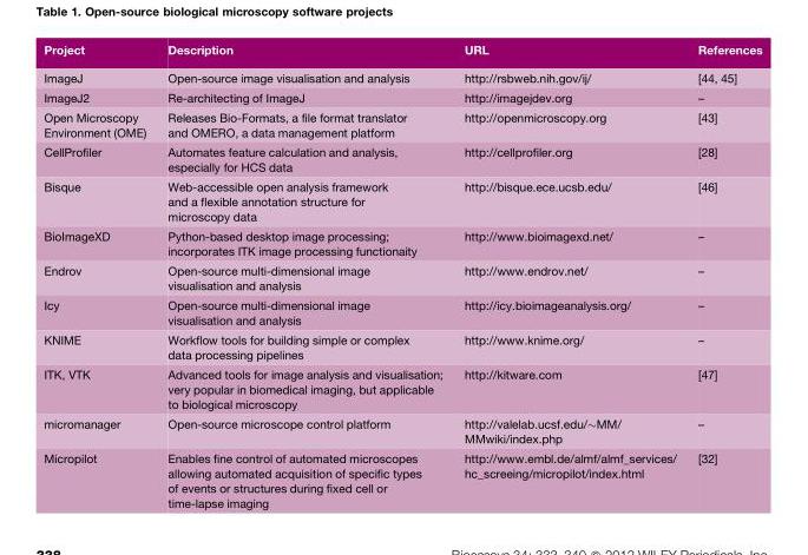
<table><thead><tr><td>Project</td><td>Description</td><td>URL</td><td>References</td></tr></thead><tbody><tr><td>ImageJ</td><td>Open-source image visualisation and analysis</td><td>http://rsbweb.nih.gov/ij/</td><td>[44, 45]</td></tr><tr><td>ImageJ2</td><td>Re-architecting of ImageJ</td><td>http://imagejdev.org</td><td>–</td></tr><tr><td>Open Microscopy Environment (OME)</td><td>Releases Bio-Formats, a file format translator and OMERO, a data management platform</td><td>http://openmicroscopy.org</td><td>[43]</td></tr><tr><td>CellProfiler</td><td>Automates feature calculation and analysis, especially for HCS data</td><td>http://cellprofiler.org</td><td>[28]</td></tr><tr><td>Bisque</td><td>Web-accessible open analysis framework and a flexible annotation structure for microscopy data</td><td>http://bisque.ece.ucsb.edu/</td><td>[46]</td></tr><tr><td>BioImageXD</td><td>Python-based desktop image processing; incorporates ITK image processing functionaity</td><td>http://www.bioimagexd.net/</td><td>–</td></tr><tr><td>Endrov</td><td>Open-source multi-dimensional image visualisation and analysis</td><td>http://www.endrov.net/</td><td>–</td></tr><tr><td>Icy</td><td>Open-source multi-dimensional image visualisation and analysis</td><td>http://icy.bioimageanalysis.org/</td><td>–</td></tr><tr><td>KNIME</td><td>Workflow tools for building simple or complex data processing pipelines</td><td>http://www.knime.org/</td><td>–</td></tr><tr><td>ITK, VTK</td><td>Advanced tools for image analysis and visualisation; very popular in biomedical imaging, but applicable to biological microscopy</td><td>http://kitware.com</td><td>[47]</td></tr><tr><td>micromanager</td><td>Open-source microscope control platform</td><td>http://valelab.ucsf.edu/∼MM/ MMwiki/index.php</td><td>–</td></tr><tr><td>Micropilot</td><td>Enables fine control of automated microscopes allowing automated acquisition of specific types of events or structures during fixed cell or time-lapse imaging</td><td>http://www.embl.de/almf/almf_services/ hc_screeing/micropilot/index.html</td><td>[32]</td></tr></tbody></table>